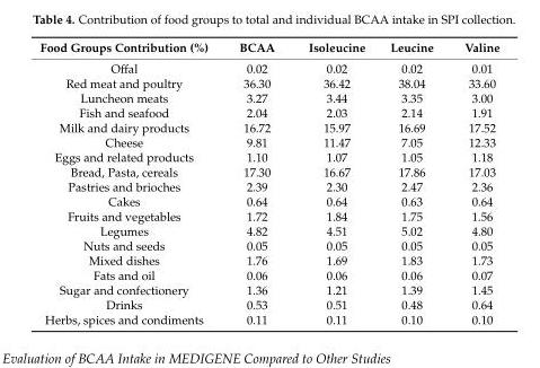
<table><thead><tr><td>Food Groups Contribution (%)</td><td>BCAA</td><td>Isoleucine</td><td>Leucine</td><td>Valine</td></tr></thead><tbody><tr><td>Offal</td><td>0.02</td><td>0.02</td><td>0.02</td><td>0.01</td></tr><tr><td>Red meat and poultry</td><td>36.30</td><td>36.42</td><td>38.04</td><td>33.60</td></tr><tr><td>Luncheon meats</td><td>3.27</td><td>3.44</td><td>3.35</td><td>3.00</td></tr><tr><td>Fish and seafood</td><td>2.04</td><td>2.03</td><td>2.14</td><td>1.91</td></tr><tr><td>Milk and dairy products</td><td>16.72</td><td>15.97</td><td>16.69</td><td>17.52</td></tr><tr><td>Cheese</td><td>9.81</td><td>11.47</td><td>7.05</td><td>12.33</td></tr><tr><td>Eggs and related products</td><td>1.10</td><td>1.07</td><td>1.05</td><td>1.18</td></tr><tr><td>Bread, Pasta, cereals</td><td>17.30</td><td>16.67</td><td>17.86</td><td>17.03</td></tr><tr><td>Pastries and brioches</td><td>2.39</td><td>2.30</td><td>2.47</td><td>2.36</td></tr><tr><td>Cakes</td><td>0.64</td><td>0.64</td><td>0.63</td><td>0.64</td></tr><tr><td>Fruits and vegetables</td><td>1.72</td><td>1.84</td><td>1.75</td><td>1.56</td></tr><tr><td>Legumes</td><td>4.82</td><td>4.51</td><td>5.02</td><td>4.80</td></tr><tr><td>Nuts and seeds</td><td>0.05</td><td>0.05</td><td>0.05</td><td>0.05</td></tr><tr><td>Mixed dishes</td><td>1.76</td><td>1.69</td><td>1.83</td><td>1.73</td></tr><tr><td>Fats and oil</td><td>0.06</td><td>0.06</td><td>0.06</td><td>0.07</td></tr><tr><td>Sugar and confectionery</td><td>1.36</td><td>1.21</td><td>1.39</td><td>1.45</td></tr><tr><td>Drinks</td><td>0.53</td><td>0.51</td><td>0.48</td><td>0.64</td></tr><tr><td>Herbs, spices and condiments</td><td>0.11</td><td>0.11</td><td>0.10</td><td>0.10</td></tr></tbody></table>